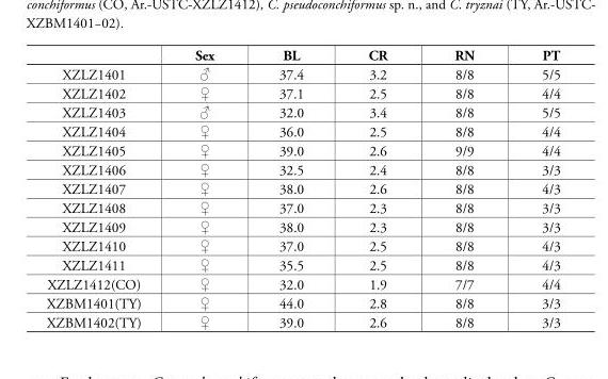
<table><thead><tr><td></td><td>Sex</td><td>BL</td><td>CR</td><td>RN</td><td>PT</td></tr></thead><tbody><tr><td>XZLZ1401</td><td>♂</td><td>37.4</td><td>3.2</td><td>8/8</td><td>5/5</td></tr><tr><td>XZLZ1402</td><td>♀</td><td>37.1</td><td>2.5</td><td>8/8</td><td>4/4</td></tr><tr><td>XZLZ1403</td><td>♂</td><td>32.0</td><td>3.4</td><td>8/8</td><td>5/5</td></tr><tr><td>XZLZ1404</td><td>♀</td><td>36.0</td><td>2.5</td><td>8/8</td><td>4/4</td></tr><tr><td>XZLZ1405</td><td>♀</td><td>39.0</td><td>2.6</td><td>9/9</td><td>4/4</td></tr><tr><td>XZLZ1406</td><td>♀</td><td>32.5</td><td>2.4</td><td>8/8</td><td>3/3</td></tr><tr><td>XZLZ1407</td><td>♀</td><td>38.0</td><td>2.6</td><td>8/8</td><td>4/3</td></tr><tr><td>XZLZ1408</td><td>♀</td><td>37.0</td><td>2.3</td><td>8/8</td><td>3/3</td></tr><tr><td>XZLZ1409</td><td>♀</td><td>38.0</td><td>2.3</td><td>8/8</td><td>3/3</td></tr><tr><td>XZLZ1410</td><td>♀</td><td>37.0</td><td>2.5</td><td>8/8</td><td>4/3</td></tr><tr><td>XZLZ1411</td><td>♀</td><td>35.5</td><td>2.5</td><td>8/8</td><td>4/3</td></tr><tr><td>XZLZ1412(CO)</td><td>♀</td><td>32.0</td><td>1.9</td><td>7/7</td><td>4/4</td></tr><tr><td>XZBM1401(TY)</td><td>♀</td><td>44.0</td><td>2.8</td><td>8/8</td><td>3/3</td></tr><tr><td>XZBM1402(TY)</td><td>♀</td><td>39.0</td><td>2.6</td><td>8/8</td><td>3/3</td></tr></tbody></table>